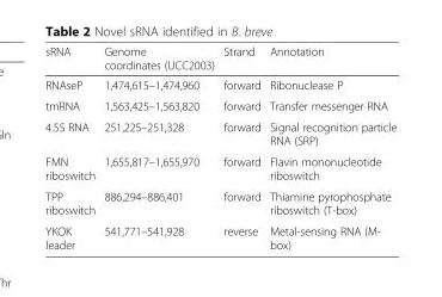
<table><thead><tr><td>sRNA</td><td>Genome coordinates (UCC2003)</td><td>Strand</td><td>Annotation</td></tr></thead><tbody><tr><td>RNAseP</td><td>1,474,615–1,474,960</td><td>forward</td><td>Ribonuclease P</td></tr><tr><td>tmRNA</td><td>1,563,425–1,563,820</td><td>forward</td><td>Transfer messenger RNA</td></tr><tr><td>4.5S RNA</td><td>251,225–251,328</td><td>forward</td><td>Signal recognition particle RNA (SRP)</td></tr><tr><td>FMN riboswitch</td><td>1,655,817–1,655,970</td><td>forward</td><td>Flavin mononucleotide riboswitch</td></tr><tr><td>TPP riboswitch</td><td>886,294–886,401</td><td>forward</td><td>Thiamine pyrophosphate riboswitch (T-box)</td></tr><tr><td>YKOK leader</td><td>541,771–541,928</td><td>reverse</td><td>Metal-sensing RNA (M- box)</td></tr></tbody></table>